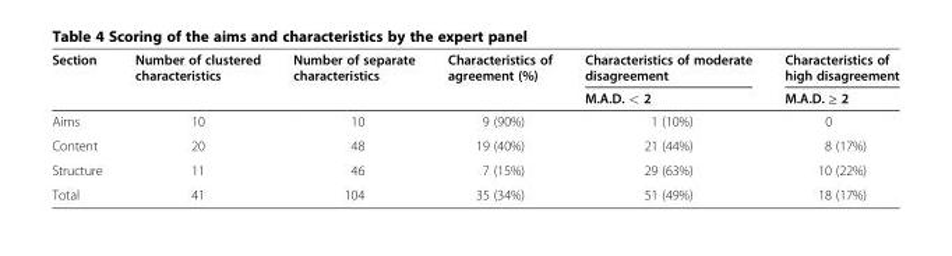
<table><thead><tr><td rowspan="2">Section</td><td rowspan="2">Number of clustered characteristics</td><td rowspan="2">Number of separate characteristics</td><td rowspan="2">Characteristics of agreement (%)</td><td rowspan="2">Characteristics of moderate disagreement M.A.D. &lt; 2</td><td rowspan="2">Characteristics of high disagreement M.A.D. ≥ 2</td></tr><tr></tr></thead><tbody><tr><td>Aims</td><td>10</td><td>10</td><td>9 (90%)</td><td>1 (10%)</td><td>0</td></tr><tr><td>Content</td><td>20</td><td>48</td><td>19 (40%)</td><td>21 (44%)</td><td>8 (17%)</td></tr><tr><td>Structure</td><td>11</td><td>46</td><td>7 (15%)</td><td>29 (63%)</td><td>10 (22%)</td></tr><tr><td>Total</td><td>41</td><td>104</td><td>35 (34%)</td><td>51 (49%)</td><td>18 (17%)</td></tr></tbody></table>